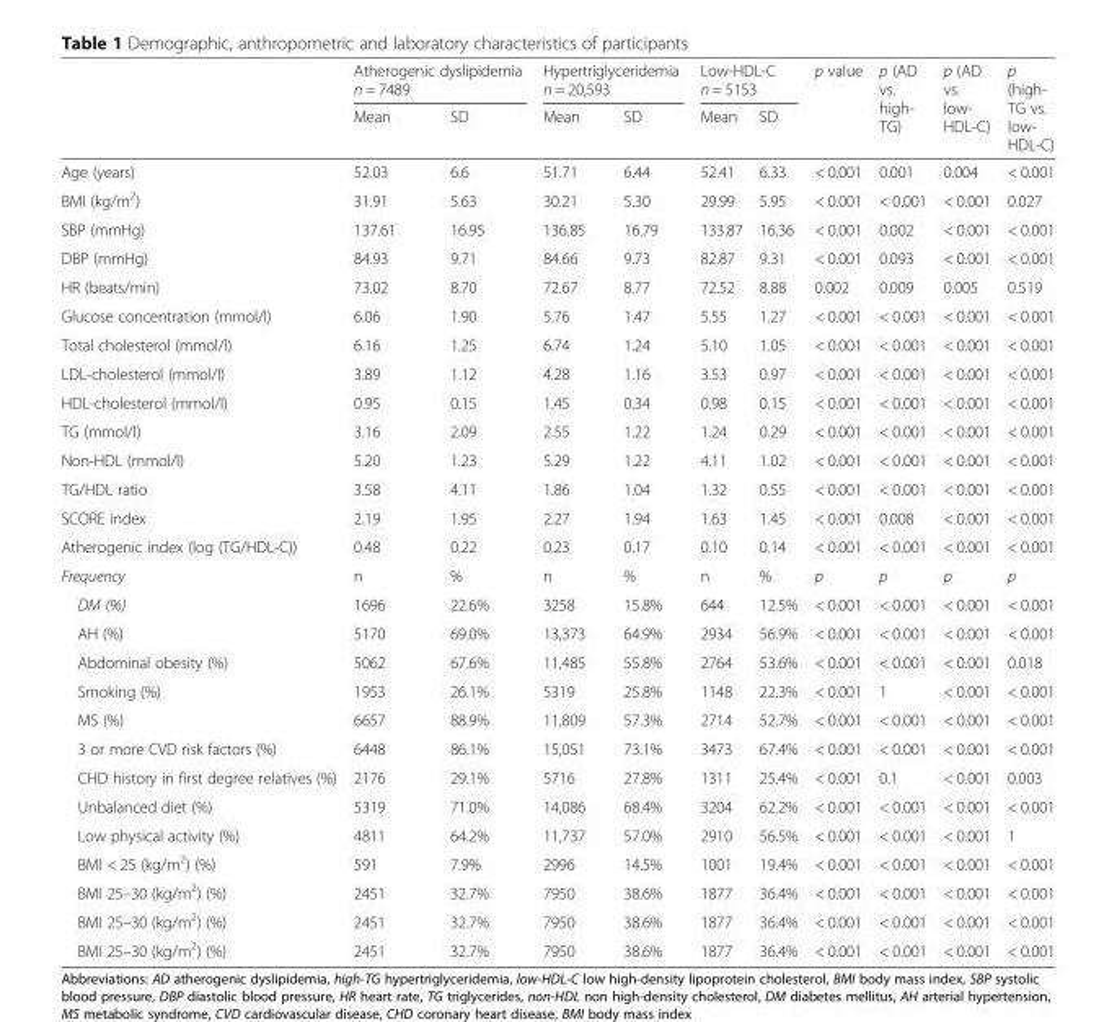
<table><thead><tr><td rowspan="3"></td><td rowspan="2" colspan="2">Atherogenic dyslipidemia n = 7489</td><td rowspan="2" colspan="2">Hypertriglyceridemia n = 20,593</td><td rowspan="2" colspan="2">Low-HDL-C n = 5153</td><td rowspan="3">p value</td><td rowspan="3">p (AD vs. high- TG)</td><td rowspan="3">p (AD vs. low- HDL-C)</td><td rowspan="3">p (high- TG vs. low- HDL-C)</td></tr><tr></tr><tr><td>Mean</td><td>SD</td><td>Mean</td><td>SD</td><td>Mean</td><td>SD</td></tr></thead><tbody><tr><td>Age (years)</td><td>52.03</td><td>6.6</td><td>51.71</td><td>6.44</td><td>52.41</td><td>6.33</td><td>&lt; 0.001</td><td>0.001</td><td>0.004</td><td>&lt; 0.001</td></tr><tr><td>BMI (kg/m<sup>2</sup>)</td><td>31.91</td><td>5.63</td><td>30.21</td><td>5.30</td><td>29.99</td><td>5.95</td><td>&lt; 0.001</td><td>&lt; 0.001</td><td>&lt; 0.001</td><td>0.027</td></tr><tr><td>SBP (mmHg)</td><td>137.61</td><td>16.95</td><td>136.85</td><td>16.79</td><td>133.87</td><td>16.36</td><td>&lt; 0.001</td><td>0.002</td><td>&lt; 0.001</td><td>&lt; 0.001</td></tr><tr><td>DBP (mmHg)</td><td>84.93</td><td>9.71</td><td>84.66</td><td>9.73</td><td>82.87</td><td>9.31</td><td>&lt; 0.001</td><td>0.093</td><td>&lt; 0.001</td><td>&lt; 0.001</td></tr><tr><td>HR (beats/min)</td><td>73.02</td><td>8.70</td><td>72.67</td><td>8.77</td><td>72.52</td><td>8.88</td><td>0.002</td><td>0.009</td><td>0.005</td><td>0.519</td></tr><tr><td>Glucose concentration (mmol/l)</td><td>6.06</td><td>1.90</td><td>5.76</td><td>1.47</td><td>5.55</td><td>1.27</td><td>&lt; 0.001</td><td>&lt; 0.001</td><td>&lt; 0.001</td><td>&lt; 0.001</td></tr><tr><td>Total cholesterol (mmol/l)</td><td>6.16</td><td>1.25</td><td>6.74</td><td>1.24</td><td>5.10</td><td>1.05</td><td>&lt; 0.001</td><td>&lt; 0.001</td><td>&lt; 0.001</td><td>&lt; 0.001</td></tr><tr><td>LDL-cholesterol (mmol/l)</td><td>3.89</td><td>1.12</td><td>4.28</td><td>1.16</td><td>3.53</td><td>0.97</td><td>&lt; 0.001</td><td>&lt; 0.001</td><td>&lt; 0.001</td><td>&lt; 0.001</td></tr><tr><td>HDL-cholesterol (mmol/l)</td><td>0.95</td><td>0.15</td><td>1.45</td><td>0.34</td><td>0.98</td><td>0.15</td><td>&lt; 0.001</td><td>&lt; 0.001</td><td>&lt; 0.001</td><td>&lt; 0.001</td></tr><tr><td>TG (mmol/l)</td><td>3.16</td><td>2.09</td><td>2.55</td><td>1.22</td><td>1.24</td><td>0.29</td><td>&lt; 0.001</td><td>&lt; 0.001</td><td>&lt; 0.001</td><td>&lt; 0.001</td></tr><tr><td>Non-HDL (mmol/l)</td><td>5.20</td><td>1.23</td><td>5.29</td><td>1.22</td><td>4.11</td><td>1.02</td><td>&lt; 0.001</td><td>&lt; 0.001</td><td>&lt; 0.001</td><td>&lt; 0.001</td></tr><tr><td>TG/HDL ratio</td><td>3.58</td><td>4.11</td><td>1.86</td><td>1.04</td><td>1.32</td><td>0.55</td><td>&lt; 0.001</td><td>&lt; 0.001</td><td>&lt; 0.001</td><td>&lt; 0.001</td></tr><tr><td>SCORE index</td><td>2.19</td><td>1.95</td><td>2.27</td><td>1.94</td><td>1.63</td><td>1.45</td><td>&lt; 0.001</td><td>0.008</td><td>&lt; 0.001</td><td>&lt; 0.001</td></tr><tr><td>Atherogenic index (log (TG/HDL-C))</td><td>0.48</td><td>0.22</td><td>0.23</td><td>0.17</td><td>0.10</td><td>0.14</td><td>&lt; 0.001</td><td>&lt; 0.001</td><td>&lt; 0.001</td><td>&lt; 0.001</td></tr><tr><td>Frequency</td><td>n</td><td>%</td><td>n</td><td>%</td><td>n</td><td>%</td><td>p</td><td>p</td><td>p</td><td>p</td></tr><tr><td>DM (%)</td><td>1696</td><td>22.6%</td><td>3258</td><td>15.8%</td><td>644</td><td>12.5%</td><td>&lt; 0.001</td><td>&lt; 0.001</td><td>&lt; 0.001</td><td>&lt; 0.001</td></tr><tr><td>AH (%)</td><td>5170</td><td>69.0%</td><td>13,373</td><td>64.9%</td><td>2934</td><td>56.9%</td><td>&lt; 0.001</td><td>&lt; 0.001</td><td>&lt; 0.001</td><td>&lt; 0.001</td></tr><tr><td>Abdominal obesity (%)</td><td>5062</td><td>67.6%</td><td>11,485</td><td>55.8%</td><td>2764</td><td>53.6%</td><td>&lt; 0.001</td><td>&lt; 0.001</td><td>&lt; 0.001</td><td>0.018</td></tr><tr><td>Smoking (%)</td><td>1953</td><td>26.1%</td><td>5319</td><td>25.8%</td><td>1148</td><td>22.3%</td><td>&lt; 0.001</td><td>1</td><td>&lt; 0.001</td><td>&lt; 0.001</td></tr><tr><td>MS (%)</td><td>6657</td><td>88.9%</td><td>11,809</td><td>57.3%</td><td>2714</td><td>52.7%</td><td>&lt; 0.001</td><td>&lt; 0.001</td><td>&lt; 0.001</td><td>&lt; 0.001</td></tr><tr><td>3 or more CVD risk factors (%)</td><td>6448</td><td>86.1%</td><td>15,051</td><td>73.1%</td><td>3473</td><td>67.4%</td><td>&lt; 0.001</td><td>&lt; 0.001</td><td>&lt; 0.001</td><td>&lt; 0.001</td></tr><tr><td>CHD history in first degree relatives (%)</td><td>2176</td><td>29.1%</td><td>5716</td><td>27.8%</td><td>1311</td><td>25.4%</td><td>&lt; 0.001</td><td>0.1</td><td>&lt; 0.001</td><td>0.003</td></tr><tr><td>Unbalanced diet (%)</td><td>5319</td><td>71.0%</td><td>14,086</td><td>68.4%</td><td>3204</td><td>62.2%</td><td>&lt; 0.001</td><td>&lt; 0.001</td><td>&lt; 0.001</td><td>&lt; 0.001</td></tr><tr><td>Low physical activity (%)</td><td>4811</td><td>64.2%</td><td>11,737</td><td>57.0%</td><td>2910</td><td>56.5%</td><td>&lt; 0.001</td><td>&lt; 0.001</td><td>&lt; 0.001</td><td>1</td></tr><tr><td>BMI &lt; 25 (kg/m<sup>2</sup>) (%)</td><td>591</td><td>7.9%</td><td>2996</td><td>14.5%</td><td>1001</td><td>19.4%</td><td>&lt; 0.001</td><td>&lt; 0.001</td><td>&lt; 0.001</td><td>&lt; 0.001</td></tr><tr><td>BMI 25–30 (kg/m<sup>2</sup>) (%)</td><td>2451</td><td>32.7%</td><td>7950</td><td>38.6%</td><td>1877</td><td>36.4%</td><td>&lt; 0.001</td><td>&lt; 0.001</td><td>&lt; 0.001</td><td>&lt; 0.001</td></tr><tr><td>BMI 25–30 (kg/m<sup>2</sup>) (%)</td><td>2451</td><td>32.7%</td><td>7950</td><td>38.6%</td><td>1877</td><td>36.4%</td><td>&lt; 0.001</td><td>&lt; 0.001</td><td>&lt; 0.001</td><td>&lt; 0.001</td></tr><tr><td>BMI 25–30 (kg/m<sup>2</sup>) (%)</td><td>2451</td><td>32.7%</td><td>7950</td><td>38.6%</td><td>1877</td><td>36.4%</td><td>&lt; 0.001</td><td>&lt; 0.001</td><td>&lt; 0.001</td><td>&lt; 0.001</td></tr></tbody></table>